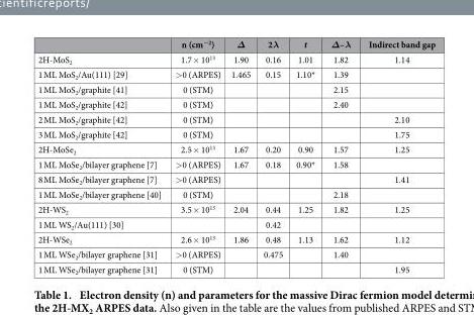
<table><thead><tr><td></td><td>n (cm<sup>−2</sup>)</td><td>Δ</td><td>2λ</td><td>t</td><td>Δ–λ</td><td>Indirect band gap</td></tr></thead><tbody><tr><td>2H-MoS<sub>2</sub></td><td>1.7 × 10<sup>13</sup></td><td>1.90</td><td>0.16</td><td>1.01</td><td>1.82</td><td>1.14</td></tr><tr><td>1 ML MoS<sub>2</sub>/Au(111) [29]</td><td>&gt; 0 (ARPES)</td><td>1.465</td><td>0.15</td><td>1.10*</td><td>1.39</td><td></td></tr><tr><td>1 ML MoS<sub>2</sub>/graphite [41]</td><td>0 (STM)</td><td></td><td></td><td></td><td>2.15</td><td></td></tr><tr><td>1 ML MoS<sub>2</sub>/graphite [42]</td><td>0 (STM)</td><td></td><td></td><td></td><td>2.40</td><td></td></tr><tr><td>2 ML MoS<sub>2</sub>/graphite [42]</td><td>0 (STM)</td><td></td><td></td><td></td><td></td><td>2.10</td></tr><tr><td>3 ML MoS<sub>2</sub>/graphite [42]</td><td>0 (STM)</td><td></td><td></td><td></td><td></td><td>1.75</td></tr><tr><td>2H-MoSe<sub>2</sub></td><td>2.5 × 10<sup>13</sup></td><td>1.67</td><td>0.20</td><td>0.90</td><td>1.57</td><td>1.25</td></tr><tr><td>1 ML MoSe<sub>2</sub>/bilayer graphene [7]</td><td>&gt; 0 (ARPES)</td><td>1.67</td><td>0.18</td><td>0.90*</td><td>1.58</td><td></td></tr><tr><td>8 ML MoSe<sub>2</sub>/bilayer graphene [7]</td><td>&gt; 0 (ARPES)</td><td></td><td></td><td></td><td></td><td>1.41</td></tr><tr><td>1 ML MoSe<sub>2</sub>/bilayer graphene [40]</td><td>0 (STM)</td><td></td><td></td><td></td><td>2.18</td><td></td></tr><tr><td>2H-WS<sub>2</sub></td><td>3.5 × 10<sup>13</sup></td><td>2.04</td><td>0.44</td><td>1.25</td><td>1.82</td><td>1.25</td></tr><tr><td>1 ML WS<sub>2</sub>/Au(111) [30]</td><td></td><td></td><td>0.42</td><td></td><td></td><td></td></tr><tr><td>2H-WSe<sub>2</sub></td><td>2.6 × 10<sup>13</sup></td><td>1.86</td><td>0.48</td><td>1.13</td><td>1.62</td><td>1.12</td></tr><tr><td>1 ML WSe<sub>2</sub>/bilayer graphene [31]</td><td>&gt; 0 (ARPES)</td><td></td><td>0.475</td><td></td><td>1.40</td><td></td></tr><tr><td>1 ML WSe<sub>2</sub>/bilayer graphene [31]</td><td>0 (STM)</td><td></td><td></td><td></td><td></td><td>1.95</td></tr></tbody></table>